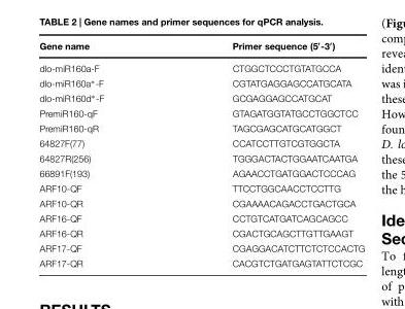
<table><thead><tr><td>Gene name</td><td>Primer sequence (5′-3′)</td></tr></thead><tbody><tr><td>dlo-miR160a-F</td><td>CTGGCTCCCTGTATGCCA</td></tr><tr><td>dlo-miR160a∗-F</td><td>CGTATGAGGAGCCATGCATA</td></tr><tr><td>dlo-miR160d∗-F</td><td>GCGAGGAGCCATGCAT</td></tr><tr><td>PremiR160-qF</td><td>GTAGATGGTATGCCTGGCTCC</td></tr><tr><td>PremiR160-qR</td><td>TAGCGAGCATGCATGGCT</td></tr><tr><td>64827F(77)</td><td>CCATCCTTGTCGTGGCTA</td></tr><tr><td>64827R(256)</td><td>TGGGACTACTGGAATCAATGA</td></tr><tr><td>66891F(193)</td><td>AGAACCTGATGGACTCCCAG</td></tr><tr><td>ARF10-QF</td><td>TTCCTGGCAACCTCCTTG</td></tr><tr><td>ARF10-QR</td><td>CGAAAACAGACCTGACTGCA</td></tr><tr><td>ARF16-QF</td><td>CCTGTCATGATCAGCAGCC</td></tr><tr><td>ARF16-QR</td><td>CGACTGCAGCTTGTTGAAGT</td></tr><tr><td>ARF17-QF</td><td>CGAGGACATCTTCTCTCCACTG</td></tr><tr><td>ARF17-QR</td><td>CACGTCTGATGAGTATTCTCGC</td></tr></tbody></table>